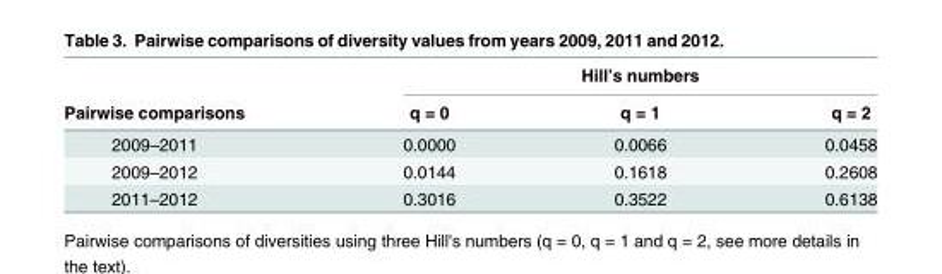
<table><thead><tr><td rowspan="2">Pairwise comparisons</td><td colspan="3">Hill’s numbers</td></tr><tr><td>q = 0</td><td>q = 1</td><td>q = 2</td></tr></thead><tbody><tr><td>2009–2011</td><td>0.0000</td><td>0.0066</td><td>0.0458</td></tr><tr><td>2009–2012</td><td>0.0144</td><td>0.1618</td><td>0.2608</td></tr><tr><td>2011–2012</td><td>0.3016</td><td>0.3522</td><td>0.6138</td></tr></tbody></table>